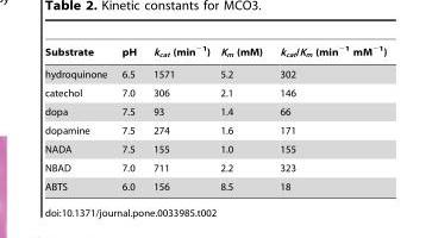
<table><thead><tr><td>Substrate</td><td>pH</td><td>k<sub>cat</sub> (min<sup>−1</sup>)</td><td>K<sub>m</sub> (mM)</td><td>k<sub>cat</sub>/K<sub>m</sub> (min<sup>−1</sup> mM<sup>−1</sup>)</td></tr></thead><tbody><tr><td>hydroquinone</td><td>6.5</td><td>1571</td><td>5.2</td><td>302</td></tr><tr><td>catechol</td><td>7.0</td><td>306</td><td>2.1</td><td>146</td></tr><tr><td>dopa</td><td>7.5</td><td>93</td><td>1.4</td><td>66</td></tr><tr><td>dopamine</td><td>7.5</td><td>274</td><td>1.6</td><td>171</td></tr><tr><td>NADA</td><td>7.5</td><td>155</td><td>1.0</td><td>155</td></tr><tr><td>NBAD</td><td>7.0</td><td>711</td><td>2.2</td><td>323</td></tr><tr><td>ABTS</td><td>6.0</td><td>156</td><td>8.5</td><td>18</td></tr></tbody></table>